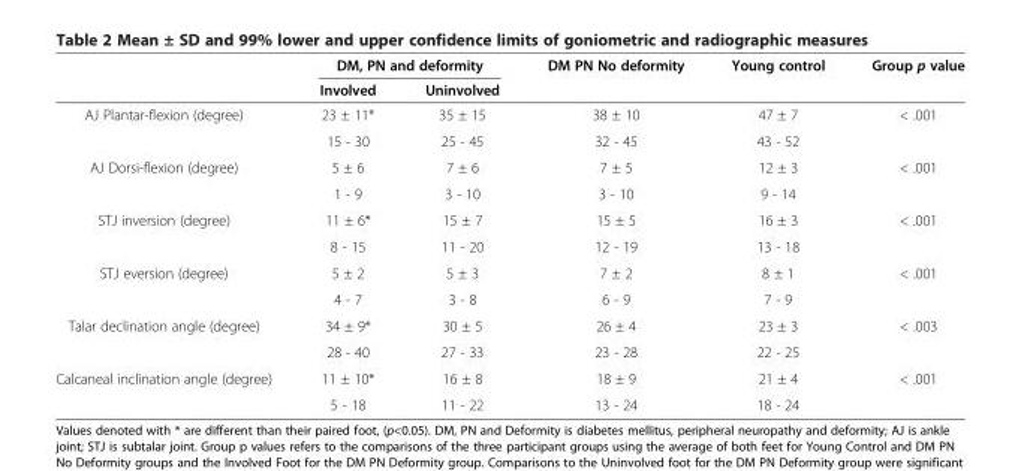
<table><thead><tr><td rowspan="2"></td><td colspan="2">DM, PN and deformity</td><td rowspan="2">DM PN No deformity</td><td rowspan="2">Young control</td><td rowspan="2">Group p value</td></tr><tr><td>Involved</td><td>Uninvolved</td></tr></thead><tbody><tr><td rowspan="2">AJ Plantar-flexion (degree)</td><td>23 ± 11*</td><td>35 ± 15</td><td>38 ± 10</td><td>47 ± 7</td><td rowspan="2">&lt; .001</td></tr><tr><td>15 - 30</td><td>25 - 45</td><td>32 - 45</td><td>43 - 52</td></tr><tr><td rowspan="2">AJ Dorsi-flexion (degree)</td><td>5 ± 6</td><td>7 ± 6</td><td>7 ± 5</td><td>12 ± 3</td><td rowspan="2">&lt; .001</td></tr><tr><td>1 - 9</td><td>3 - 10</td><td>3 - 10</td><td>9 - 14</td></tr><tr><td rowspan="2">STJ inversion (degree)</td><td>11 ± 6*</td><td>15 ± 7</td><td>15 ± 5</td><td>16 ± 3</td><td rowspan="2">&lt; .001</td></tr><tr><td>8 - 15</td><td>11 - 20</td><td>12 - 19</td><td>13 - 18</td></tr><tr><td rowspan="2">STJ eversion (degree)</td><td>5 ± 2</td><td>5 ± 3</td><td>7 ± 2</td><td>8 ± 1</td><td rowspan="2">&lt; .001</td></tr><tr><td>4 - 7</td><td>3 - 8</td><td>6 - 9</td><td>7 - 9</td></tr><tr><td rowspan="2">Talar declination angle (degree)</td><td>34 ± 9*</td><td>30 ± 5</td><td>26 ± 4</td><td>23 ± 3</td><td rowspan="2">&lt; .003</td></tr><tr><td>28 - 40</td><td>27 - 33</td><td>23 - 28</td><td>22 - 25</td></tr><tr><td rowspan="2">Calcaneal inclination angle (degree)</td><td>11 ± 10*</td><td>16 ± 8</td><td>18 ± 9</td><td>21 ± 4</td><td rowspan="2">&lt; .001</td></tr><tr><td>5 - 18</td><td>11 - 22</td><td>13 - 24</td><td>18 - 24</td></tr></tbody></table>